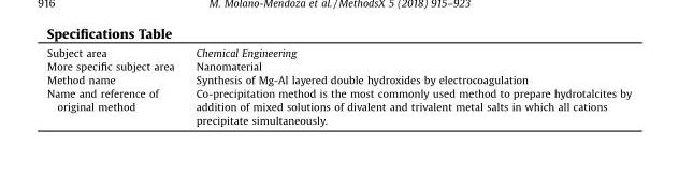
<table><tbody><tr><td>Subject area</td><td>Chemical Engineering</td></tr><tr><td>More specific subject area</td><td>Nanomaterial</td></tr><tr><td>Method name</td><td>Synthesis of Mg-Al layered double hydroxides by electrocoagulation</td></tr><tr><td>Name and reference of original method</td><td>Co-precipitation method is the most commonly used method to prepare hydrotalcites by addition of mixed solutions of divalent and trivalent metal salts in which all cations precipitate simultaneously.</td></tr></tbody></table>